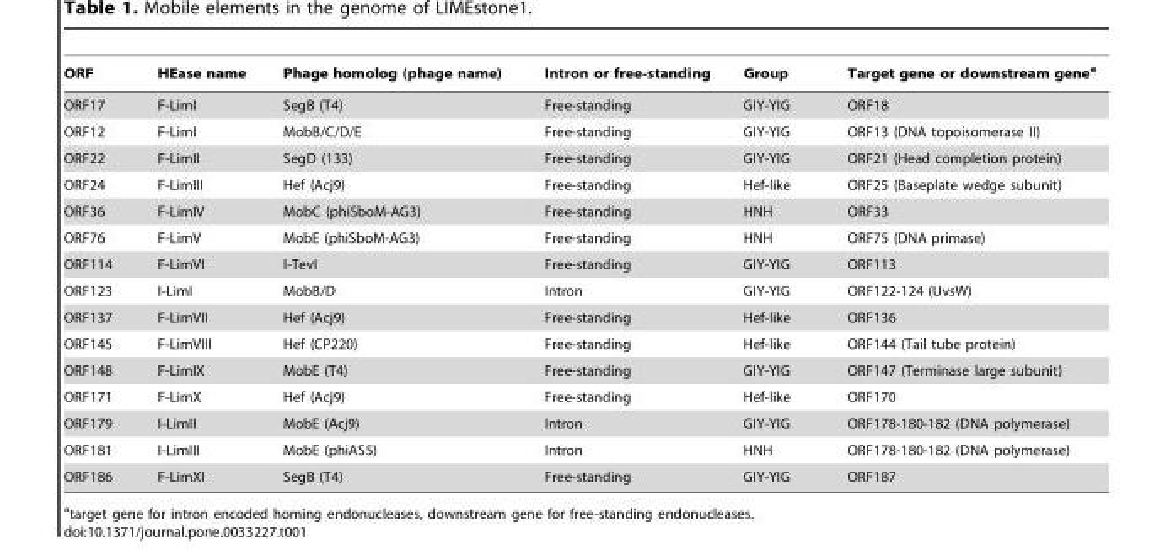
<table><thead><tr><td>ORF</td><td>HEase name</td><td>Phage homolog (phage name)</td><td>Intron or free-standing</td><td>Group</td><td>Target gene or downstream gene<sup>a</sup></td></tr></thead><tbody><tr><td>ORF17</td><td>F-LimI</td><td>SegB (T4)</td><td>Free-standing</td><td>GIY-YIG</td><td>ORF18</td></tr><tr><td>ORF12</td><td>F-LimI</td><td>MobB/C/D/E</td><td>Free-standing</td><td>GIY-YIG</td><td>ORF13 (DNA topoisomerase II)</td></tr><tr><td>ORF22</td><td>F-LimII</td><td>SegD (133)</td><td>Free-standing</td><td>GIY-YIG</td><td>ORF21 (Head completion protein)</td></tr><tr><td>ORF24</td><td>F-LimIII</td><td>Hef (Acj9)</td><td>Free-standing</td><td>Hef-like</td><td>ORF25 (Baseplate wedge subunit)</td></tr><tr><td>ORF36</td><td>F-LimIV</td><td>MobC (phiSboM-AG3)</td><td>Free-standing</td><td>HNH</td><td>ORF33</td></tr><tr><td>ORF76</td><td>F-LimV</td><td>MobE (phiSboM-AG3)</td><td>Free-standing</td><td>HNH</td><td>ORF75 (DNA primase)</td></tr><tr><td>ORF114</td><td>F-LimVI</td><td>I-TevI</td><td>Free-standing</td><td>GIY-YIG</td><td>ORF113</td></tr><tr><td>ORF123</td><td>I-LimI</td><td>MobB/D</td><td>Intron</td><td>GIY-YIG</td><td>ORF122-124 (UvsW)</td></tr><tr><td>ORF137</td><td>F-LimVII</td><td>Hef (Acj9)</td><td>Free-standing</td><td>Hef-like</td><td>ORF136</td></tr><tr><td>ORF145</td><td>F-LimVIII</td><td>Hef (CP220)</td><td>Free-standing</td><td>Hef-like</td><td>ORF144 (Tail tube protein)</td></tr><tr><td>ORF148</td><td>F-LimIX</td><td>MobE (T4)</td><td>Free-standing</td><td>GIY-YIG</td><td>ORF147 (Terminase large subunit)</td></tr><tr><td>ORF171</td><td>F-LimX</td><td>Hef (Acj9)</td><td>Free-standing</td><td>Hef-like</td><td>ORF170</td></tr><tr><td>ORF179</td><td>I-LimII</td><td>MobE (Acj9)</td><td>Intron</td><td>GIY-YIG</td><td>ORF178-180-182 (DNA polymerase)</td></tr><tr><td>ORF181</td><td>I-LimIII</td><td>MobE (phiAS5)</td><td>Intron</td><td>HNH</td><td>ORF178-180-182 (DNA polymerase)</td></tr><tr><td>ORF186</td><td>F-LimXI</td><td>SegB (T4)</td><td>Free-standing</td><td>GIY-YIG</td><td>ORF187</td></tr></tbody></table>